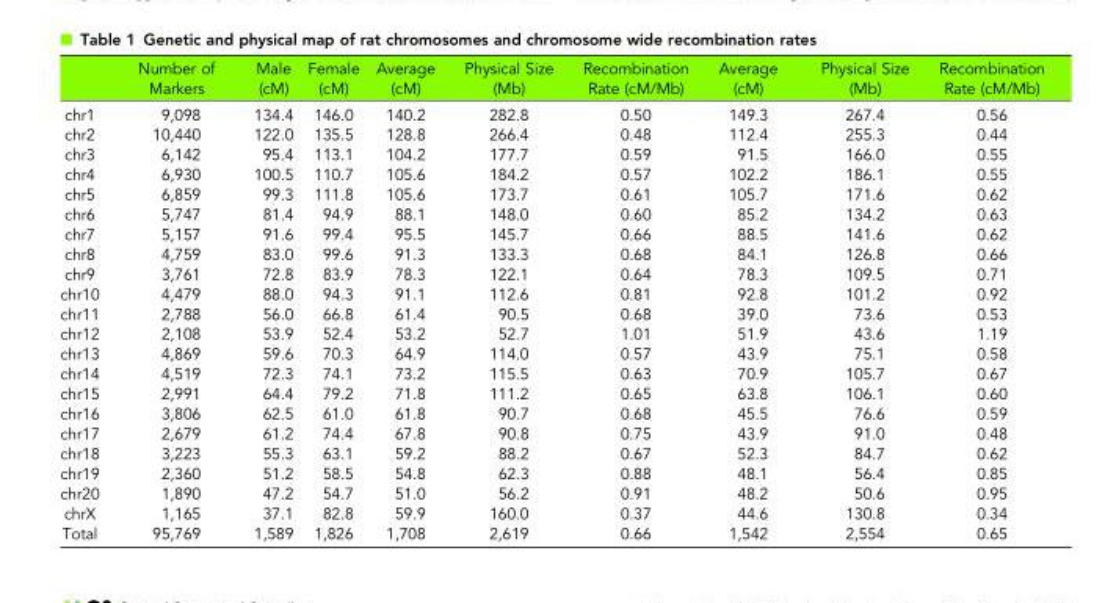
<table><thead><tr><td></td><td>Number of Markers</td><td>Male (cM)</td><td>Female (cM)</td><td>Average (cM)</td><td>Physical Size (Mb)</td><td>Recombination Rate (cM/Mb)</td><td>Average (cM)</td><td>Physical Size (Mb)</td><td>Recombination Rate (cM/Mb)</td></tr></thead><tbody><tr><td>chr1</td><td>9,098</td><td>134.4</td><td>146.0</td><td>140.2</td><td>282.8</td><td>0.50</td><td>149.3</td><td>267.4</td><td>0.56</td></tr><tr><td>chr2</td><td>10,440</td><td>122.0</td><td>135.5</td><td>128.8</td><td>266.4</td><td>0.48</td><td>112.4</td><td>255.3</td><td>0.44</td></tr><tr><td>chr3</td><td>6,142</td><td>95.4</td><td>113.1</td><td>104.2</td><td>177.7</td><td>0.59</td><td>91.5</td><td>166.0</td><td>0.55</td></tr><tr><td>chr4</td><td>6,930</td><td>100.5</td><td>110.7</td><td>105.6</td><td>184.2</td><td>0.57</td><td>102.2</td><td>186.1</td><td>0.55</td></tr><tr><td>chr5</td><td>6,859</td><td>99.3</td><td>111.8</td><td>105.6</td><td>173.7</td><td>0.61</td><td>105.7</td><td>171.6</td><td>0.62</td></tr><tr><td>chr6</td><td>5,747</td><td>81.4</td><td>94.9</td><td>88.1</td><td>148.0</td><td>0.60</td><td>85.2</td><td>134.2</td><td>0.63</td></tr><tr><td>chr7</td><td>5,157</td><td>91.6</td><td>99.4</td><td>95.5</td><td>145.7</td><td>0.66</td><td>88.5</td><td>141.6</td><td>0.62</td></tr><tr><td>chr8</td><td>4,759</td><td>83.0</td><td>99.6</td><td>91.3</td><td>133.3</td><td>0.68</td><td>84.1</td><td>126.8</td><td>0.66</td></tr><tr><td>chr9</td><td>3,761</td><td>72.8</td><td>83.9</td><td>78.3</td><td>122.1</td><td>0.64</td><td>78.3</td><td>109.5</td><td>0.71</td></tr><tr><td>chr10</td><td>4,479</td><td>88.0</td><td>94.3</td><td>91.1</td><td>112.6</td><td>0.81</td><td>92.8</td><td>101.2</td><td>0.92</td></tr><tr><td>chr11</td><td>2,788</td><td>56.0</td><td>66.8</td><td>61.4</td><td>90.5</td><td>0.68</td><td>39.0</td><td>73.6</td><td>0.53</td></tr><tr><td>chr12</td><td>2,108</td><td>53.9</td><td>52.4</td><td>53.2</td><td>52.7</td><td>1.01</td><td>51.9</td><td>43.6</td><td>1.19</td></tr><tr><td>chr13</td><td>4,869</td><td>59.6</td><td>70.3</td><td>64.9</td><td>114.0</td><td>0.57</td><td>43.9</td><td>75.1</td><td>0.58</td></tr><tr><td>chr14</td><td>4,519</td><td>72.3</td><td>74.1</td><td>73.2</td><td>115.5</td><td>0.63</td><td>70.9</td><td>105.7</td><td>0.67</td></tr><tr><td>chr15</td><td>2,991</td><td>64.4</td><td>79.2</td><td>71.8</td><td>111.2</td><td>0.65</td><td>63.8</td><td>106.1</td><td>0.60</td></tr><tr><td>chr16</td><td>3,806</td><td>62.5</td><td>61.0</td><td>61.8</td><td>90.7</td><td>0.68</td><td>45.5</td><td>76.6</td><td>0.59</td></tr><tr><td>chr17</td><td>2,679</td><td>61.2</td><td>74.4</td><td>67.8</td><td>90.8</td><td>0.75</td><td>43.9</td><td>91.0</td><td>0.48</td></tr><tr><td>chr18</td><td>3,223</td><td>55.3</td><td>63.1</td><td>59.2</td><td>88.2</td><td>0.67</td><td>52.3</td><td>84.7</td><td>0.62</td></tr><tr><td>chr19</td><td>2,360</td><td>51.2</td><td>58.5</td><td>54.8</td><td>62.3</td><td>0.88</td><td>48.1</td><td>56.4</td><td>0.85</td></tr><tr><td>chr20</td><td>1,890</td><td>47.2</td><td>54.7</td><td>51.0</td><td>56.2</td><td>0.91</td><td>48.2</td><td>50.6</td><td>0.95</td></tr><tr><td>chrX</td><td>1,165</td><td>37.1</td><td>82.8</td><td>59.9</td><td>160.0</td><td>0.37</td><td>44.6</td><td>130.8</td><td>0.34</td></tr><tr><td>Total</td><td>95,769</td><td>1,589</td><td>1,826</td><td>1,708</td><td>2,619</td><td>0.66</td><td>1,542</td><td>2,554</td><td>0.65</td></tr></tbody></table>